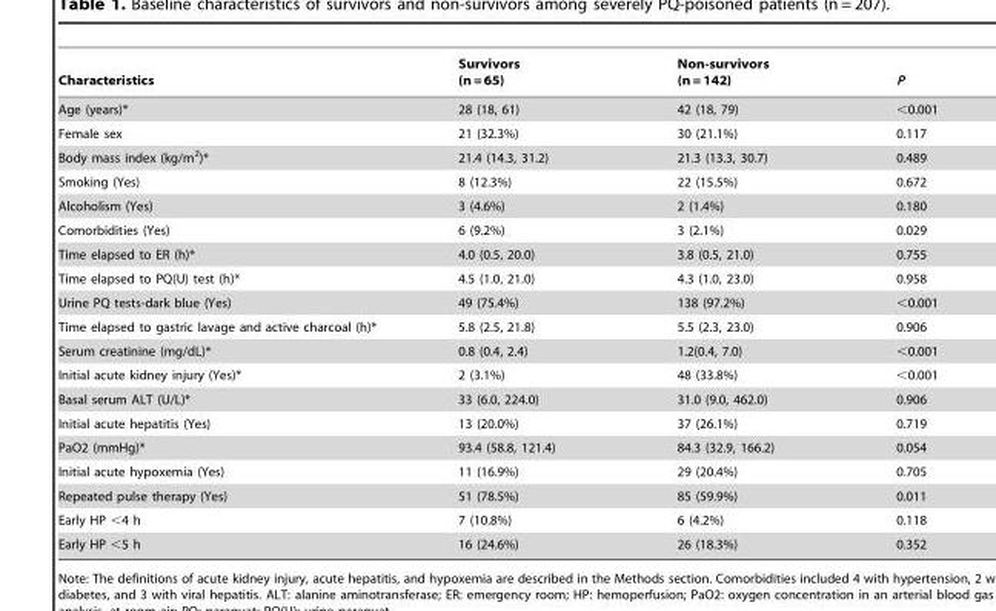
<table><thead><tr><td>Characteristics</td><td>Survivors (n = 65)</td><td>Non-survivors (n = 142)</td><td>P</td></tr></thead><tbody><tr><td>Age (years)*</td><td>28 (18, 61)</td><td>42 (18, 79)</td><td>&lt;0.001</td></tr><tr><td>Female sex</td><td>21 (32.3%)</td><td>30 (21.1%)</td><td>0.117</td></tr><tr><td>Body mass index (kg/m<sup>2</sup>)*</td><td>21.4 (14.3, 31.2)</td><td>21.3 (13.3, 30.7)</td><td>0.489</td></tr><tr><td>Smoking (Yes)</td><td>8 (12.3%)</td><td>22 (15.5%)</td><td>0.672</td></tr><tr><td>Alcoholism (Yes)</td><td>3 (4.6%)</td><td>2 (1.4%)</td><td>0.180</td></tr><tr><td>Comorbidities (Yes)</td><td>6 (9.2%)</td><td>3 (2.1%)</td><td>0.029</td></tr><tr><td>Time elapsed to ER (h)*</td><td>4.0 (0.5, 20.0)</td><td>3.8 (0.5, 21.0)</td><td>0.755</td></tr><tr><td>Time elapsed to PQ(U) test (h)*</td><td>4.5 (1.0, 21.0)</td><td>4.3 (1.0, 23.0)</td><td>0.958</td></tr><tr><td>Urine PQ tests-dark blue (Yes)</td><td>49 (75.4%)</td><td>138 (97.2%)</td><td>&lt;0.001</td></tr><tr><td>Time elapsed to gastric lavage and active charcoal (h)*</td><td>5.8 (2.5, 21.8)</td><td>5.5 (2.3, 23.0)</td><td>0.906</td></tr><tr><td>Serum creatinine (mg/dL)*</td><td>0.8 (0.4, 2.4)</td><td>1.2(0.4, 7.0)</td><td>&lt;0.001</td></tr><tr><td>Initial acute kidney injury (Yes)*</td><td>2 (3.1%)</td><td>48 (33.8%)</td><td>&lt;0.001</td></tr><tr><td>Basal serum ALT (U/L)*</td><td>33 (6.0, 224.0)</td><td>31.0 (9.0, 462.0)</td><td>0.906</td></tr><tr><td>Initial acute hepatitis (Yes)</td><td>13 (20.0%)</td><td>37 (26.1%)</td><td>0.719</td></tr><tr><td>PaO2 (mmHg)*</td><td>93.4 (58.8, 121.4)</td><td>84.3 (32.9, 166.2)</td><td>0.054</td></tr><tr><td>Initial acute hypoxemia (Yes)</td><td>11 (16.9%)</td><td>29 (20.4%)</td><td>0.705</td></tr><tr><td>Repeated pulse therapy (Yes)</td><td>51 (78.5%)</td><td>85 (59.9%)</td><td>0.011</td></tr><tr><td>Early HP &lt;4 h</td><td>7 (10.8%)</td><td>6 (4.2%)</td><td>0.118</td></tr><tr><td>Early HP &lt;5 h</td><td>16 (24.6%)</td><td>26 (18.3%)</td><td>0.352</td></tr></tbody></table>